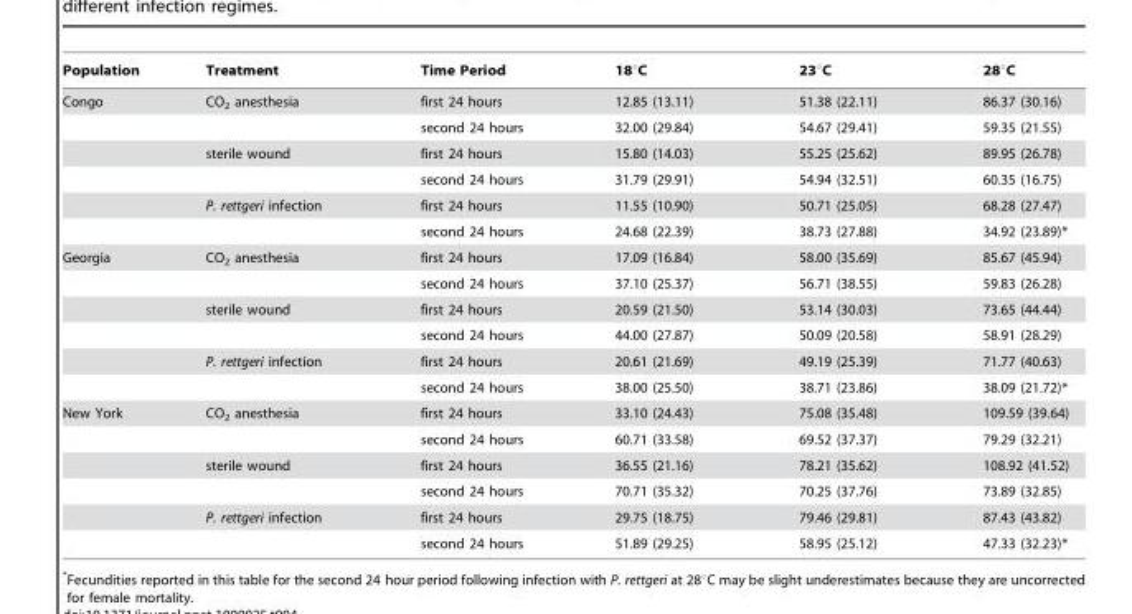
<table><thead><tr><td>Population</td><td>Treatment</td><td>Time Period</td><td>18°C</td><td>23°C</td><td>28°C</td></tr></thead><tbody><tr><td rowspan="6">Congo</td><td>CO<sub>2</sub> anesthesia</td><td>first 24 hours</td><td>12.85 (13.11)</td><td>51.38 (22.11)</td><td>86.37 (30.16)</td></tr><tr><td></td><td>second 24 hours</td><td>32.00 (29.84)</td><td>54.67 (29.41)</td><td>59.35 (21.55)</td></tr><tr><td>sterile wound</td><td>first 24 hours</td><td>15.80 (14.03)</td><td>55.25 (25.62)</td><td>89.95 (26.78)</td></tr><tr><td></td><td>second 24 hours</td><td>31.79 (29.91)</td><td>54.94 (32.51)</td><td>60.35 (16.75)</td></tr><tr><td>P. rettgeri infection</td><td>first 24 hours</td><td>11.55 (10.90)</td><td>50.71 (25.05)</td><td>68.28 (27.47)</td></tr><tr><td></td><td>second 24 hours</td><td>24.68 (22.39)</td><td>38.73 (27.88)</td><td>34.92 (23.89)*</td></tr><tr><td rowspan="6">Georgia</td><td>CO<sub>2</sub> anesthesia</td><td>first 24 hours</td><td>17.09 (16.84)</td><td>58.00 (35.69)</td><td>85.67 (45.94)</td></tr><tr><td></td><td>second 24 hours</td><td>37.10 (25.37)</td><td>56.71 (38.55)</td><td>59.83 (26.28)</td></tr><tr><td>sterile wound</td><td>first 24 hours</td><td>20.59 (21.50)</td><td>53.14 (30.03)</td><td>73.65 (44.44)</td></tr><tr><td></td><td>second 24 hours</td><td>44.00 (27.87)</td><td>50.09 (20.58)</td><td>58.91 (28.29)</td></tr><tr><td>P. rettgeri infection</td><td>first 24 hours</td><td>20.61 (21.69)</td><td>49.19 (25.39)</td><td>71.77 (40.63)</td></tr><tr><td></td><td>second 24 hours</td><td>38.00 (25.50)</td><td>38.71 (23.86)</td><td>38.09 (21.72)*</td></tr><tr><td rowspan="6">New York</td><td>CO<sub>2</sub> anesthesia</td><td>first 24 hours</td><td>33.10 (24.43)</td><td>75.08 (35.48)</td><td>109.59 (39.64)</td></tr><tr><td></td><td>second 24 hours</td><td>60.71 (33.58)</td><td>69.52 (37.37)</td><td>79.29 (32.21)</td></tr><tr><td>sterile wound</td><td>first 24 hours</td><td>36.55 (21.16)</td><td>78.21 (35.62)</td><td>108.92 (41.52)</td></tr><tr><td></td><td>second 24 hours</td><td>70.71 (35.32)</td><td>70.25 (37.76)</td><td>73.89 (32.85)</td></tr><tr><td>P. rettgeri infection</td><td>first 24 hours</td><td>29.75 (18.75)</td><td>79.46 (29.81)</td><td>87.43 (43.82)</td></tr><tr><td></td><td>second 24 hours</td><td>51.89 (29.25)</td><td>58.95 (25.12)</td><td>47.33 (32.23)*</td></tr></tbody></table>